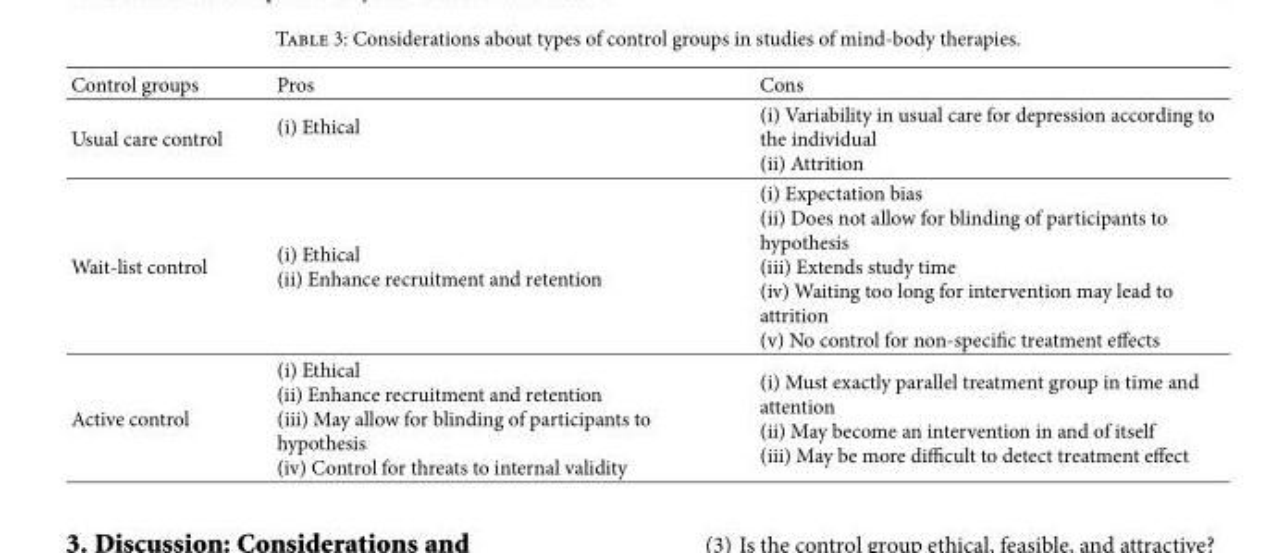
<table><thead><tr><td>Control groups</td><td>Pros</td><td>Cons</td></tr></thead><tbody><tr><td>Usual care control</td><td>(i) Ethical</td><td>(i) Variability in usual care for depression according to the individual (ii) Attrition</td></tr><tr><td>Wait-list control</td><td>(i) Ethical (ii) Enhance recruitment and retention</td><td>(i) Expectation bias (ii) Does not allow for blinding of participants to hypothesis (iii) Extends study time (iv) Waiting too long for intervention may lead to attrition (v) No control for non-specific treatment effects</td></tr><tr><td>Active control</td><td>(i) Ethical (ii) Enhance recruitment and retention (iii) May allow for blinding of participants to hypothesis (iv) Control for threats to internal validity</td><td>(i) Must exactly parallel treatment group in time and attention (ii) May become an intervention in and of itself (iii) May be more difficult to detect treatment effect</td></tr></tbody></table>